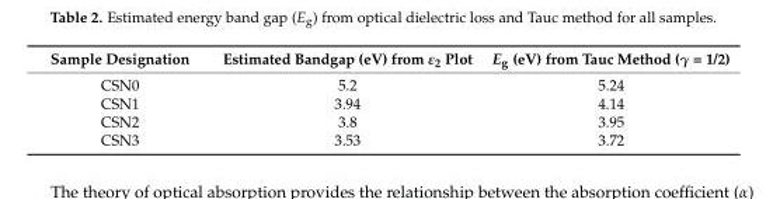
<table><thead><tr><td>Sample Designation</td><td>Estimated Bandgap (eV) from ε<sub>2</sub> Plot</td><td>E<sub>g</sub> (eV) from Tauc Method (γ = 1/2)</td></tr></thead><tbody><tr><td>CSN0</td><td>5.2</td><td>5.24</td></tr><tr><td>CSN1</td><td>3.94</td><td>4.14</td></tr><tr><td>CSN2</td><td>3.8</td><td>3.95</td></tr><tr><td>CSN3</td><td>3.53</td><td>3.72</td></tr></tbody></table>